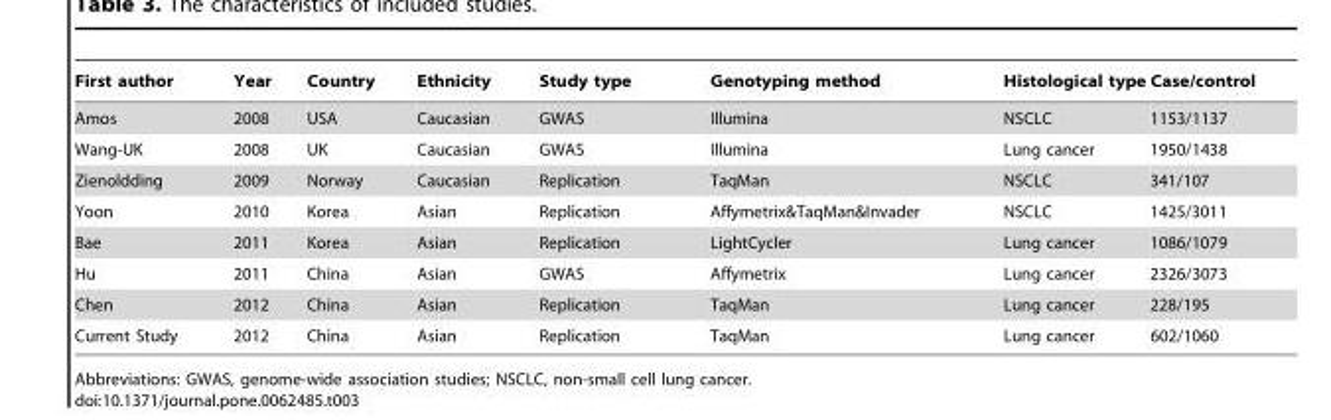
<table><thead><tr><td>First author</td><td>Year</td><td>Country</td><td>Ethnicity</td><td>Study type</td><td>Genotyping method</td><td>Histological type</td><td>Case/control</td></tr></thead><tbody><tr><td>Amos</td><td>2008</td><td>USA</td><td>Caucasian</td><td>GWAS</td><td>Illumina</td><td>NSCLC</td><td>1153/1137</td></tr><tr><td>Wang-UK</td><td>2008</td><td>UK</td><td>Caucasian</td><td>GWAS</td><td>Illumina</td><td>Lung cancer</td><td>1950/1438</td></tr><tr><td>Zienoldding</td><td>2009</td><td>Norway</td><td>Caucasian</td><td>Replication</td><td>TaqMan</td><td>NSCLC</td><td>341/107</td></tr><tr><td>Yoon</td><td>2010</td><td>Korea</td><td>Asian</td><td>Replication</td><td>Affymetrix&amp;TaqMan&amp;Invader</td><td>NSCLC</td><td>1425/3011</td></tr><tr><td>Bae</td><td>2011</td><td>Korea</td><td>Asian</td><td>Replication</td><td>LightCycler</td><td>Lung cancer</td><td>1086/1079</td></tr><tr><td>Hu</td><td>2011</td><td>China</td><td>Asian</td><td>GWAS</td><td>Affymetrix</td><td>Lung cancer</td><td>2326/3073</td></tr><tr><td>Chen</td><td>2012</td><td>China</td><td>Asian</td><td>Replication</td><td>TaqMan</td><td>Lung cancer</td><td>228/195</td></tr><tr><td>Current Study</td><td>2012</td><td>China</td><td>Asian</td><td>Replication</td><td>TaqMan</td><td>Lung cancer</td><td>602/1060</td></tr></tbody></table>